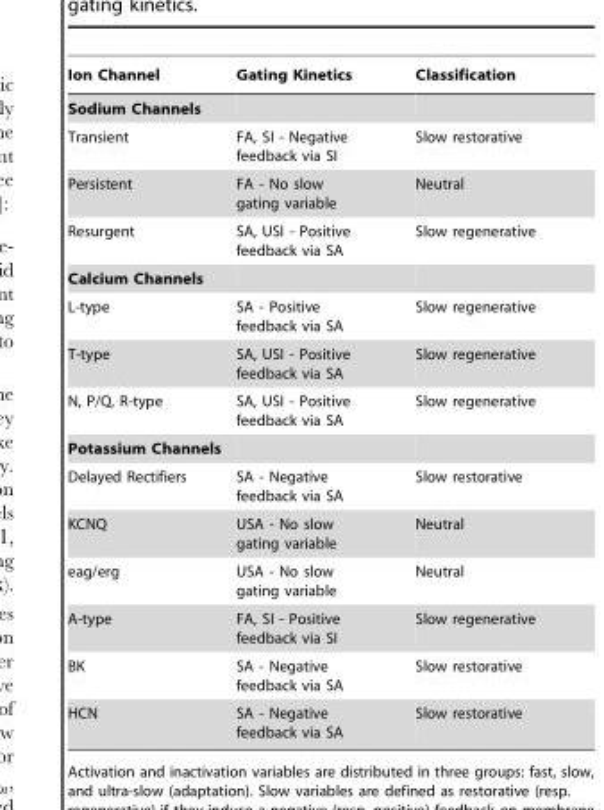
<table><thead><tr><td>Ion Channel</td><td>Gating Kinetics</td><td>Classification</td></tr></thead><tbody><tr><td colspan="3">Sodium Channels</td></tr><tr><td>Transient</td><td>FA, SI - Negative feedback via SI</td><td>Slow restorative</td></tr><tr><td>Persistent</td><td>FA - No slow gating variable</td><td>Neutral</td></tr><tr><td>Resurgent</td><td>SA, USI - Positive feedback via SA</td><td>Slow regenerative</td></tr><tr><td colspan="3">Calcium Channels</td></tr><tr><td>L-type</td><td>SA - Positive feedback via SA</td><td>Slow regenerative</td></tr><tr><td>T-type</td><td>SA, USI - Positive feedback via SA</td><td>Slow regenerative</td></tr><tr><td>N, P/Q, R-type</td><td>SA, USI - Positive feedback via SA</td><td>Slow regenerative</td></tr><tr><td colspan="3">Potassium Channels</td></tr><tr><td>Delayed Rectifiers</td><td>SA - Negative feedback via SA</td><td>Slow restorative</td></tr><tr><td>KCNQ</td><td>USA - No slow gating variable</td><td>Neutral</td></tr><tr><td>eag/erg</td><td>USA - No slow gating variable</td><td>Neutral</td></tr><tr><td>A-type</td><td>FA, SI - Positive feedback via SI</td><td>Slow regenerative</td></tr><tr><td>BK</td><td>SA - Negative feedback via SA</td><td>Slow restorative</td></tr><tr><td>HCN</td><td>SA - Negative feedback via SA</td><td>Slow restorative</td></tr></tbody></table>